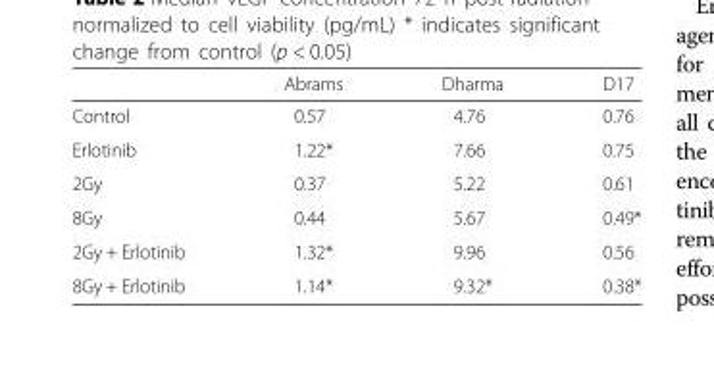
<table><thead><tr><td></td><td>Abrams</td><td>Dharma</td><td>D17</td></tr></thead><tbody><tr><td>Control</td><td>0.57</td><td>4.76</td><td>0.76</td></tr><tr><td>Erlotinib</td><td>1.22*</td><td>7.66</td><td>0.75</td></tr><tr><td>2Gy</td><td>0.37</td><td>5.22</td><td>0.61</td></tr><tr><td>8Gy</td><td>0.44</td><td>5.67</td><td>0.49*</td></tr><tr><td>2Gy + Erlotinib</td><td>1.32*</td><td>9.96</td><td>0.56</td></tr><tr><td>8Gy + Erlotinib</td><td>1.14*</td><td>9.32*</td><td>0.38*</td></tr></tbody></table>